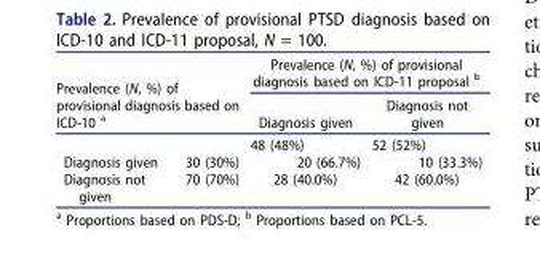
<table><thead><tr><td rowspan="2" colspan="2">Prevalence (N, %) of provisional diagnosis based on ICD-10 <sup>a</sup></td><td colspan="2">Prevalence (N, %) of provisional diagnosis based on ICD-11 proposal <sup>b</sup></td></tr><tr><td rowspan="2">Diagnosis given 48 (48%)</td><td rowspan="2">Diagnosis not given 52 (52%)</td></tr><tr><td></td><td></td></tr></thead><tbody><tr><td>Diagnosis given</td><td>30 (30%)</td><td>20 (66.7%)</td><td>10 (33.3%)</td></tr><tr><td>Diagnosis not given</td><td>70 (70%)</td><td>28 (40.0%)</td><td>42 (60.0%)</td></tr></tbody></table>